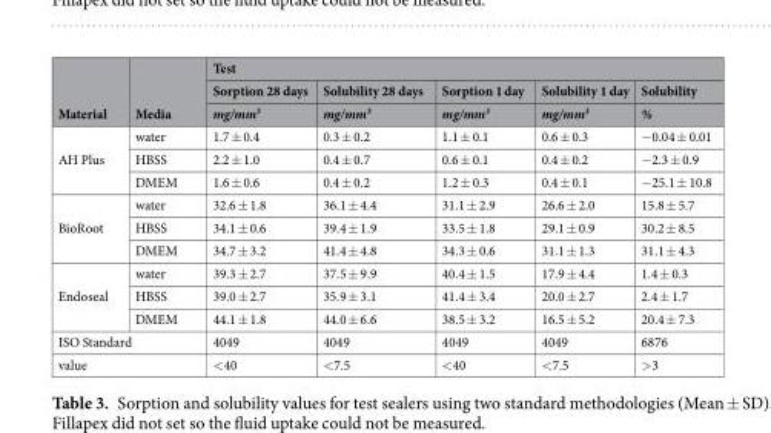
<table><thead><tr><td rowspan="3">Material</td><td rowspan="3">Media</td><td colspan="5">Test</td></tr><tr><td rowspan="2">Sorption 28 days mg/mm<sup>3</sup></td><td rowspan="2">Solubility 28 days mg/mm<sup>3</sup></td><td rowspan="2">Sorption 1 day mg/mm<sup>3</sup></td><td rowspan="2">Solubility 1 day mg/mm<sup>3</sup></td><td rowspan="2">Solubility %</td></tr><tr></tr></thead><tbody><tr><td rowspan="3">AH Plus</td><td>water</td><td>1.7 ± 0.4</td><td>0.3 ± 0.2</td><td>1.1 ± 0.1</td><td>0.6 ± 0.3</td><td>−0.04 ± 0.01</td></tr><tr><td>HBSS</td><td>2.2 ± 1.0</td><td>0.4 ± 0.7</td><td>0.6 ± 0.1</td><td>0.4 ± 0.2</td><td>−2.3 ± 0.9</td></tr><tr><td>DMEM</td><td>1.6 ± 0.6</td><td>0.4 ± 0.2</td><td>1.2 ± 0.3</td><td>0.4 ± 0.1</td><td>−25.1 ± 10.8</td></tr><tr><td rowspan="3">BioRoot</td><td>water</td><td>32.6 ± 1.8</td><td>36.1 ± 4.4</td><td>31.1 ± 2.9</td><td>26.6 ± 2.0</td><td>15.8 ± 5.7</td></tr><tr><td>HBSS</td><td>34.1 ± 0.6</td><td>39.4 ± 1.9</td><td>33.5 ± 1.8</td><td>29.1 ± 0.9</td><td>30.2 ± 8.5</td></tr><tr><td>DMEM</td><td>34.7 ± 3.2</td><td>41.4 ± 4.8</td><td>34.3 ± 0.6</td><td>31.1 ± 1.3</td><td>31.1 ± 4.3</td></tr><tr><td rowspan="3">Endoseal</td><td>water</td><td>39.3 ± 2.7</td><td>37.5 ± 9.9</td><td>40.4 ± 1.5</td><td>17.9 ± 4.4</td><td>1.4 ± 0.3</td></tr><tr><td>HBSS</td><td>39.0 ± 2.7</td><td>35.9 ± 3.1</td><td>41.4 ± 3.4</td><td>20.0 ± 2.7</td><td>2.4 ± 1.7</td></tr><tr><td>DMEM</td><td>44.1 ± 1.8</td><td>44.0 ± 6.6</td><td>38.5 ± 3.2</td><td>16.5 ± 5.2</td><td>20.4 ± 7.3</td></tr><tr><td colspan="2">ISO Standard</td><td>4049</td><td>4049</td><td>4049</td><td>4049</td><td>6876</td></tr><tr><td colspan="2">value</td><td>&lt;40</td><td>&lt;7.5</td><td>&lt;40</td><td>&lt;7.5</td><td>&gt;3</td></tr></tbody></table>